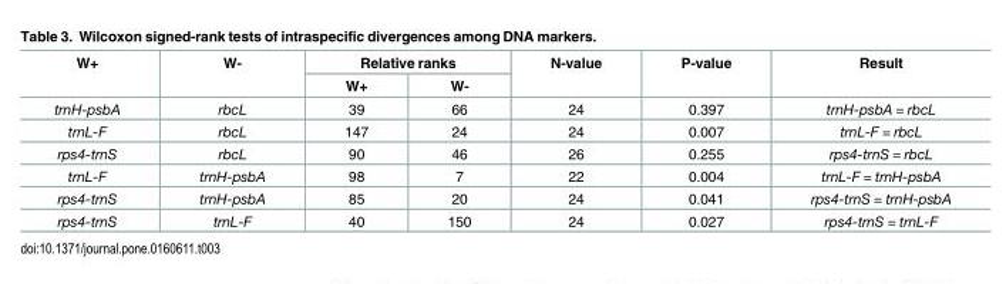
<table><thead><tr><td rowspan="2">W+</td><td rowspan="2">W-</td><td colspan="2">Relative ranks</td><td rowspan="2">N-value</td><td rowspan="2">P-value</td><td rowspan="2">Result</td></tr><tr><td>W+</td><td>W-</td></tr></thead><tbody><tr><td>trnH-psbA</td><td>rbcL</td><td>39</td><td>66</td><td>24</td><td>0.397</td><td>trnH-psbA = rbcL</td></tr><tr><td>trnL-F</td><td>rbcL</td><td>147</td><td>24</td><td>24</td><td>0.007</td><td>trnL-F = rbcL</td></tr><tr><td>rps4-trnS</td><td>rbcL</td><td>90</td><td>46</td><td>26</td><td>0.255</td><td>rps4-trnS = rbcL</td></tr><tr><td>trnL-F</td><td>trnH-psbA</td><td>98</td><td>7</td><td>22</td><td>0.004</td><td>trnL-F = trnH-psbA</td></tr><tr><td>rps4-trnS</td><td>trnH-psbA</td><td>85</td><td>20</td><td>24</td><td>0.041</td><td>rps4-trnS = trnH-psbA</td></tr><tr><td>rps4-trnS</td><td>trnL-F</td><td>40</td><td>150</td><td>24</td><td>0.027</td><td>rps4-trnS = trnL-F</td></tr></tbody></table>